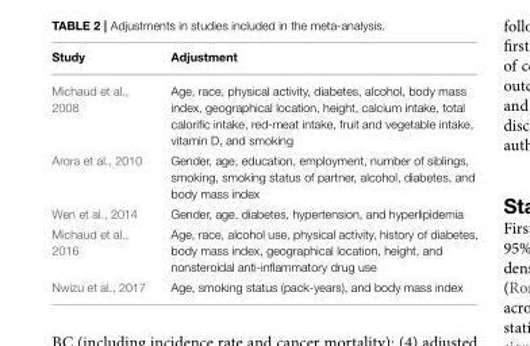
<table><thead><tr><td>Study</td><td>Adjustment</td></tr></thead><tbody><tr><td>Michaud et al., 2008</td><td>Age, race, physical activity, diabetes, alcohol, body mass index, geographical location, height, calcium intake, total calorific intake, red-meat intake, fruit and vegetable intake, vitamin D, and smoking</td></tr><tr><td>Arora et al., 2010</td><td>Gender, age, education, employment, number of siblings, smoking, smoking status of partner, alcohol, diabetes, and body mass index</td></tr><tr><td>Wen et al., 2014</td><td>Gender, age, diabetes, hypertension, and hyperlipidemia</td></tr><tr><td>Michaud et al., 2016</td><td>Age, race, alcohol use, physical activity, history of diabetes, body mass index, geographical location, height, and nonsteroidal anti-inflammatory drug use</td></tr><tr><td>Nwizu et al., 2017</td><td>Age, smoking status (pack-years), and body mass index</td></tr></tbody></table>